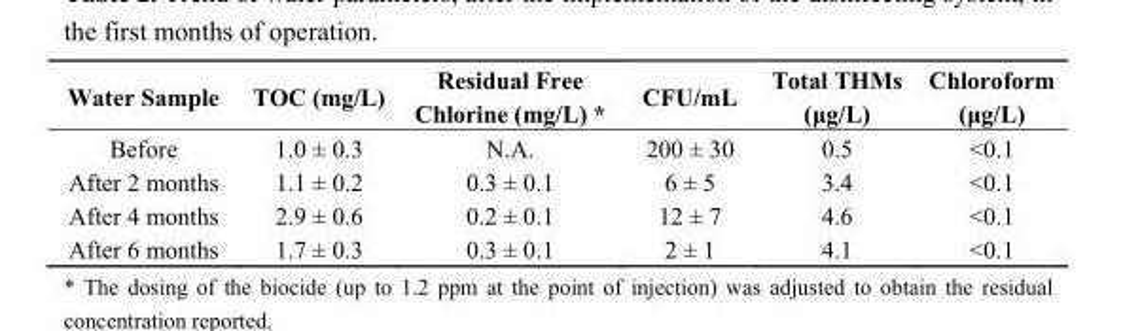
<table><thead><tr><td>Water Sample</td><td>TOC (mg/L)</td><td>Residual Free Chlorine (mg/L) *</td><td>CFU/mL</td><td>Total THMs (μg/L)</td><td>Chloroform (μg/L)</td></tr></thead><tbody><tr><td>Before</td><td>1.0 ± 0.3</td><td>N.A.</td><td>200 ± 30</td><td>0.5</td><td>&lt;0.1</td></tr><tr><td>After 2 months</td><td>1.1 ± 0.2</td><td>0.3 ± 0.1</td><td>6 ± 5</td><td>3.4</td><td>&lt;0.1</td></tr><tr><td>After 4 months</td><td>2.9 ± 0.6</td><td>0.2 ± 0.1</td><td>12 ± 7</td><td>4.6</td><td>&lt;0.1</td></tr><tr><td>After 6 months</td><td>1.7 ± 0.3</td><td>0.3 ± 0.1</td><td>2 ± 1</td><td>4.1</td><td>&lt;0.1</td></tr></tbody></table>